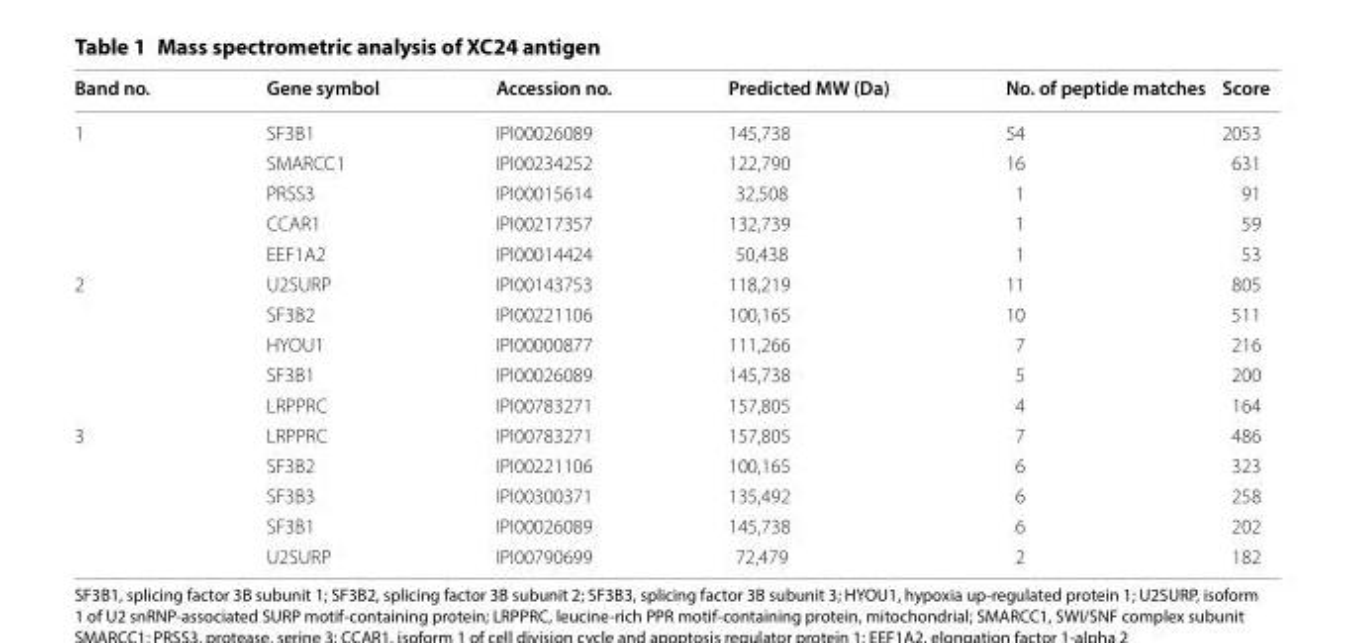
<table><thead><tr><td>Band no.</td><td>Gene symbol</td><td>Accession no.</td><td>Predicted MW (Da)</td><td>No. of peptide matches</td><td>Score</td></tr></thead><tbody><tr><td rowspan="5">1</td><td>SF3B1</td><td>IPI00026089</td><td>145,738</td><td>54</td><td>2053</td></tr><tr><td>SMARCC1</td><td>IPI00234252</td><td>122,790</td><td>16</td><td>631</td></tr><tr><td>PRSS3</td><td>IPI00015614</td><td>32,508</td><td>1</td><td>91</td></tr><tr><td>CCAR1</td><td>IPI00217357</td><td>132,739</td><td>1</td><td>59</td></tr><tr><td>EEF1A2</td><td>IPI00014424</td><td>50,438</td><td>1</td><td>53</td></tr><tr><td rowspan="5">2</td><td>U2SURP</td><td>IPI00143753</td><td>118,219</td><td>11</td><td>805</td></tr><tr><td>SF3B2</td><td>IPI00221106</td><td>100,165</td><td>10</td><td>511</td></tr><tr><td>HYOU1</td><td>IPI00000877</td><td>111,266</td><td>7</td><td>216</td></tr><tr><td>SF3B1</td><td>IPI00026089</td><td>145,738</td><td>5</td><td>200</td></tr><tr><td>LRPPRC</td><td>IPI00783271</td><td>157,805</td><td>4</td><td>164</td></tr><tr><td rowspan="5">3</td><td>LRPPRC</td><td>IPI00783271</td><td>157,805</td><td>7</td><td>486</td></tr><tr><td>SF3B2</td><td>IPI00221106</td><td>100,165</td><td>6</td><td>323</td></tr><tr><td>SF3B3</td><td>IPI00300371</td><td>135,492</td><td>6</td><td>258</td></tr><tr><td>SF3B1</td><td>IPI00026089</td><td>145,738</td><td>6</td><td>202</td></tr><tr><td>U2SURP</td><td>IPI00790699</td><td>72,479</td><td>2</td><td>182</td></tr></tbody></table>